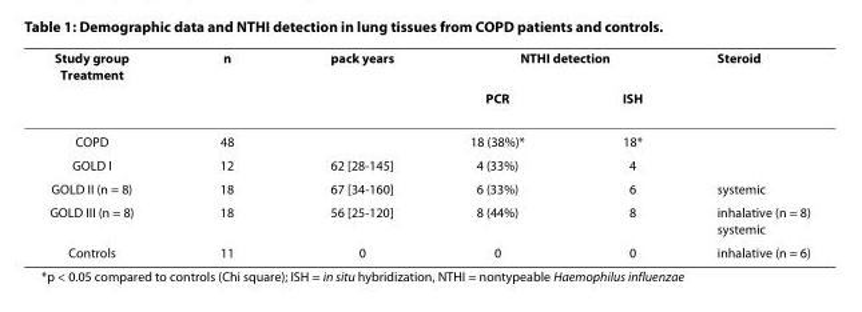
<table><thead><tr><td rowspan="2">Study group Treatment</td><td rowspan="2">n</td><td rowspan="2">pack years</td><td colspan="2">NTHI detection</td><td rowspan="2">Steroid</td></tr><tr><td>PCR</td><td>ISH</td></tr></thead><tbody><tr><td>COPD</td><td>48</td><td></td><td>18 (38%)*</td><td>18*</td><td></td></tr><tr><td>GOLD I</td><td>12</td><td>62 [28-145]</td><td>4 (33%)</td><td>4</td><td></td></tr><tr><td>GOLD II (n = 8)</td><td>18</td><td>67 [34-160]</td><td>6 (33%)</td><td>6</td><td>systemic</td></tr><tr><td>GOLD III (n = 8)</td><td>18</td><td>56 [25-120]</td><td>8 (44%)</td><td>8</td><td>inhalative (n = 8) systemic</td></tr><tr><td>Controls</td><td>11</td><td>0</td><td>0</td><td>0</td><td>inhalative (n = 6)</td></tr></tbody></table>